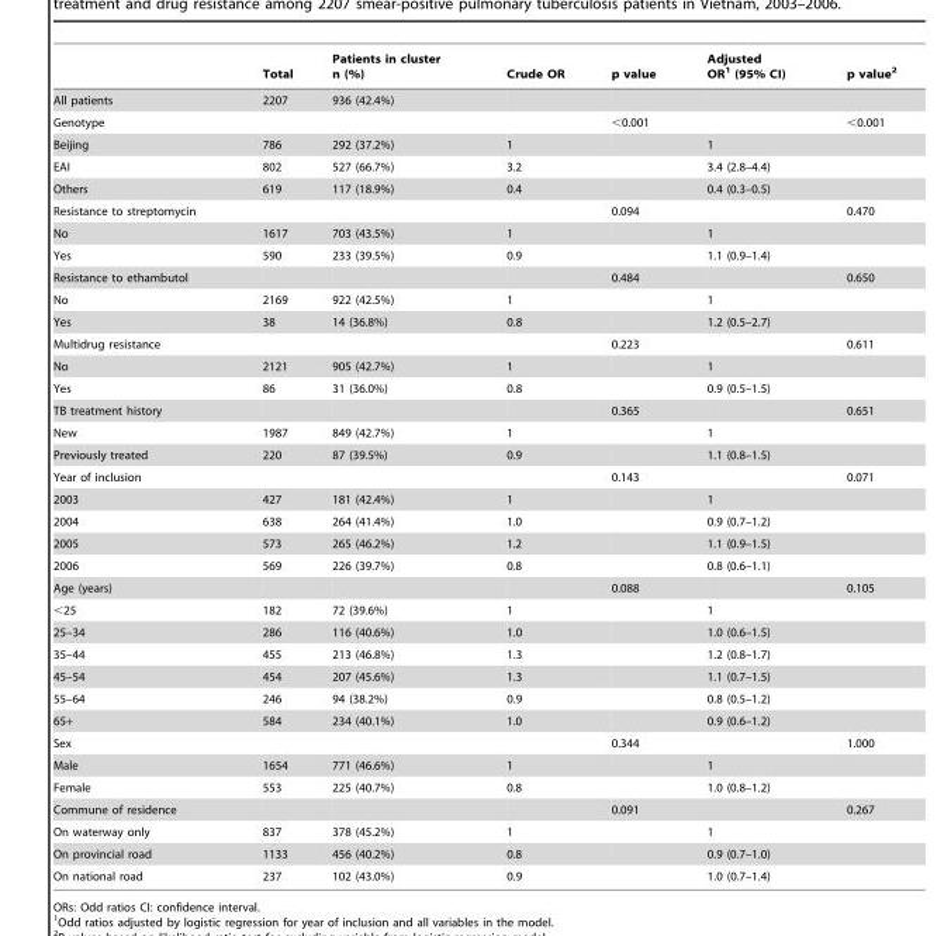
<table><thead><tr><td></td><td>Total</td><td>Patients in cluster n (%)</td><td>Crude OR</td><td>p value</td><td>Adjusted OR<sup>1</sup> (95% CI)</td><td>p value<sup>2</sup></td></tr></thead><tbody><tr><td>All patients</td><td>2207</td><td>936 (42.4%)</td><td></td><td></td><td></td><td></td></tr><tr><td>Genotype</td><td></td><td></td><td></td><td>&lt;0.001</td><td></td><td>&lt;0.001</td></tr><tr><td>Beijing</td><td>786</td><td>292 (37.2%)</td><td>1</td><td></td><td>1</td><td></td></tr><tr><td>EAI</td><td>802</td><td>527 (66.7%)</td><td>3.2</td><td></td><td>3.4 (2.8–4.4)</td><td></td></tr><tr><td>Others</td><td>619</td><td>117 (18.9%)</td><td>0.4</td><td></td><td>0.4 (0.3–0.5)</td><td></td></tr><tr><td>Resistance to streptomycin</td><td></td><td></td><td></td><td>0.094</td><td></td><td>0.470</td></tr><tr><td>No</td><td>1617</td><td>703 (43.5%)</td><td>1</td><td></td><td>1</td><td></td></tr><tr><td>Yes</td><td>590</td><td>233 (39.5%)</td><td>0.9</td><td></td><td>1.1 (0.9–1.4)</td><td></td></tr><tr><td>Resistance to ethambutol</td><td></td><td></td><td></td><td>0.484</td><td></td><td>0.650</td></tr><tr><td>No</td><td>2169</td><td>922 (42.5%)</td><td>1</td><td></td><td>1</td><td></td></tr><tr><td>Yes</td><td>38</td><td>14 (36.8%)</td><td>0.8</td><td></td><td>1.2 (0.5–2.7)</td><td></td></tr><tr><td>Multidrug resistance</td><td></td><td></td><td></td><td>0.223</td><td></td><td>0.611</td></tr><tr><td>No</td><td>2121</td><td>905 (42.7%)</td><td>1</td><td></td><td>1</td><td></td></tr><tr><td>Yes</td><td>86</td><td>31 (36.0%)</td><td>0.8</td><td></td><td>0.9 (0.5–1.5)</td><td></td></tr><tr><td>TB treatment history</td><td></td><td></td><td></td><td>0.365</td><td></td><td>0.651</td></tr><tr><td>New</td><td>1987</td><td>849 (42.7%)</td><td>1</td><td></td><td>1</td><td></td></tr><tr><td>Previously treated</td><td>220</td><td>87 (39.5%)</td><td>0.9</td><td></td><td>1.1 (0.8–1.5)</td><td></td></tr><tr><td>Year of inclusion</td><td></td><td></td><td></td><td>0.143</td><td></td><td>0.071</td></tr><tr><td>2003</td><td>427</td><td>181 (42.4%)</td><td>1</td><td></td><td>1</td><td></td></tr><tr><td>2004</td><td>638</td><td>264 (41.4%)</td><td>1.0</td><td></td><td>0.9 (0.7–1.2)</td><td></td></tr><tr><td>2005</td><td>573</td><td>265 (46.2%)</td><td>1.2</td><td></td><td>1.1 (0.9–1.5)</td><td></td></tr><tr><td>2006</td><td>569</td><td>226 (39.7%)</td><td>0.8</td><td></td><td>0.8 (0.6–1.1)</td><td></td></tr><tr><td>Age (years)</td><td></td><td></td><td></td><td>0.088</td><td></td><td>0.105</td></tr><tr><td>&lt;25</td><td>182</td><td>72 (39.6%)</td><td>1</td><td></td><td>1</td><td></td></tr><tr><td>25–34</td><td>286</td><td>116 (40.6%)</td><td>1.0</td><td></td><td>1.0 (0.6–1.5)</td><td></td></tr><tr><td>35–44</td><td>455</td><td>213 (46.8%)</td><td>1.3</td><td></td><td>1.2 (0.8–1.7)</td><td></td></tr><tr><td>45–54</td><td>454</td><td>207 (45.6%)</td><td>1.3</td><td></td><td>1.1 (0.7–1.5)</td><td></td></tr><tr><td>55–64</td><td>246</td><td>94 (38.2%)</td><td>0.9</td><td></td><td>0.8 (0.5–1.2)</td><td></td></tr><tr><td>65+</td><td>584</td><td>234 (40.1%)</td><td>1.0</td><td></td><td>0.9 (0.6–1.2)</td><td></td></tr><tr><td>Sex</td><td></td><td></td><td></td><td>0.344</td><td></td><td>1.000</td></tr><tr><td>Male</td><td>1654</td><td>771 (46.6%)</td><td>1</td><td></td><td>1</td><td></td></tr><tr><td>Female</td><td>553</td><td>225 (40.7%)</td><td>0.8</td><td></td><td>1.0 (0.8–1.2)</td><td></td></tr><tr><td>Commune of residence</td><td></td><td></td><td></td><td>0.091</td><td></td><td>0.267</td></tr><tr><td>On waterway only</td><td>837</td><td>378 (45.2%)</td><td>1</td><td></td><td>1</td><td></td></tr><tr><td>On provincial road</td><td>1133</td><td>456 (40.2%)</td><td>0.8</td><td></td><td>0.9 (0.7–1.0)</td><td></td></tr><tr><td>On national road</td><td>237</td><td>102 (43.0%)</td><td>0.9</td><td></td><td>1.0 (0.7–1.4)</td><td></td></tr></tbody></table>